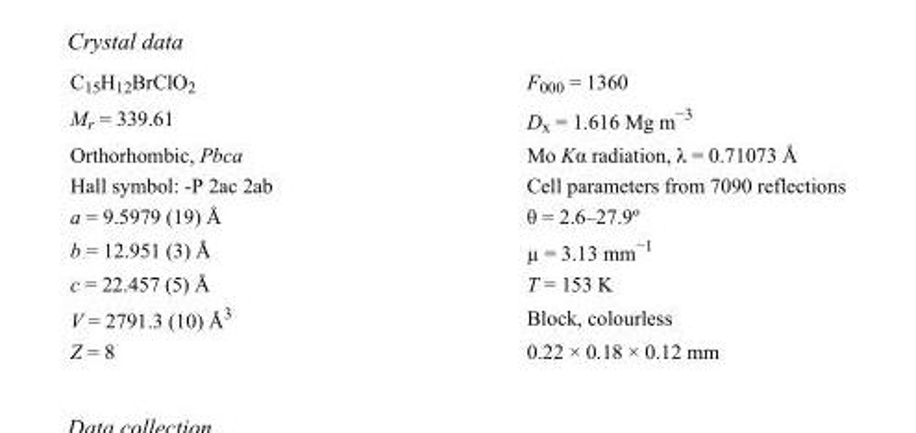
<table><tbody><tr><td>C<sub>15</sub>H<sub>12</sub>BrClO<sub>2</sub></td><td>F000 = 1360</td></tr><tr><td>M<sub>r</sub> = 339.61</td><td>D<sub>x</sub> = 1.616 Mg m<sup>−3</sup></td></tr><tr><td>Orthorhombic, Pbca</td><td>Mo Kα radiation, λ = 0.71073 Å</td></tr><tr><td>Hall symbol: -P 2ac 2ab</td><td>Cell parameters from 7090 reflections</td></tr><tr><td>a = 9.5979 (19) Å</td><td>θ = 2.6–27.9º</td></tr><tr><td>b = 12.951 (3) Å</td><td>µ = 3.13 mm<sup>−1</sup></td></tr><tr><td>c = 22.457 (5) Å</td><td>T = 153 K</td></tr><tr><td>V = 2791.3 (10) Å<sup>3</sup></td><td>Block, colourless</td></tr><tr><td>Z = 8</td><td>0.22 × 0.18 × 0.12 mm</td></tr></tbody></table>